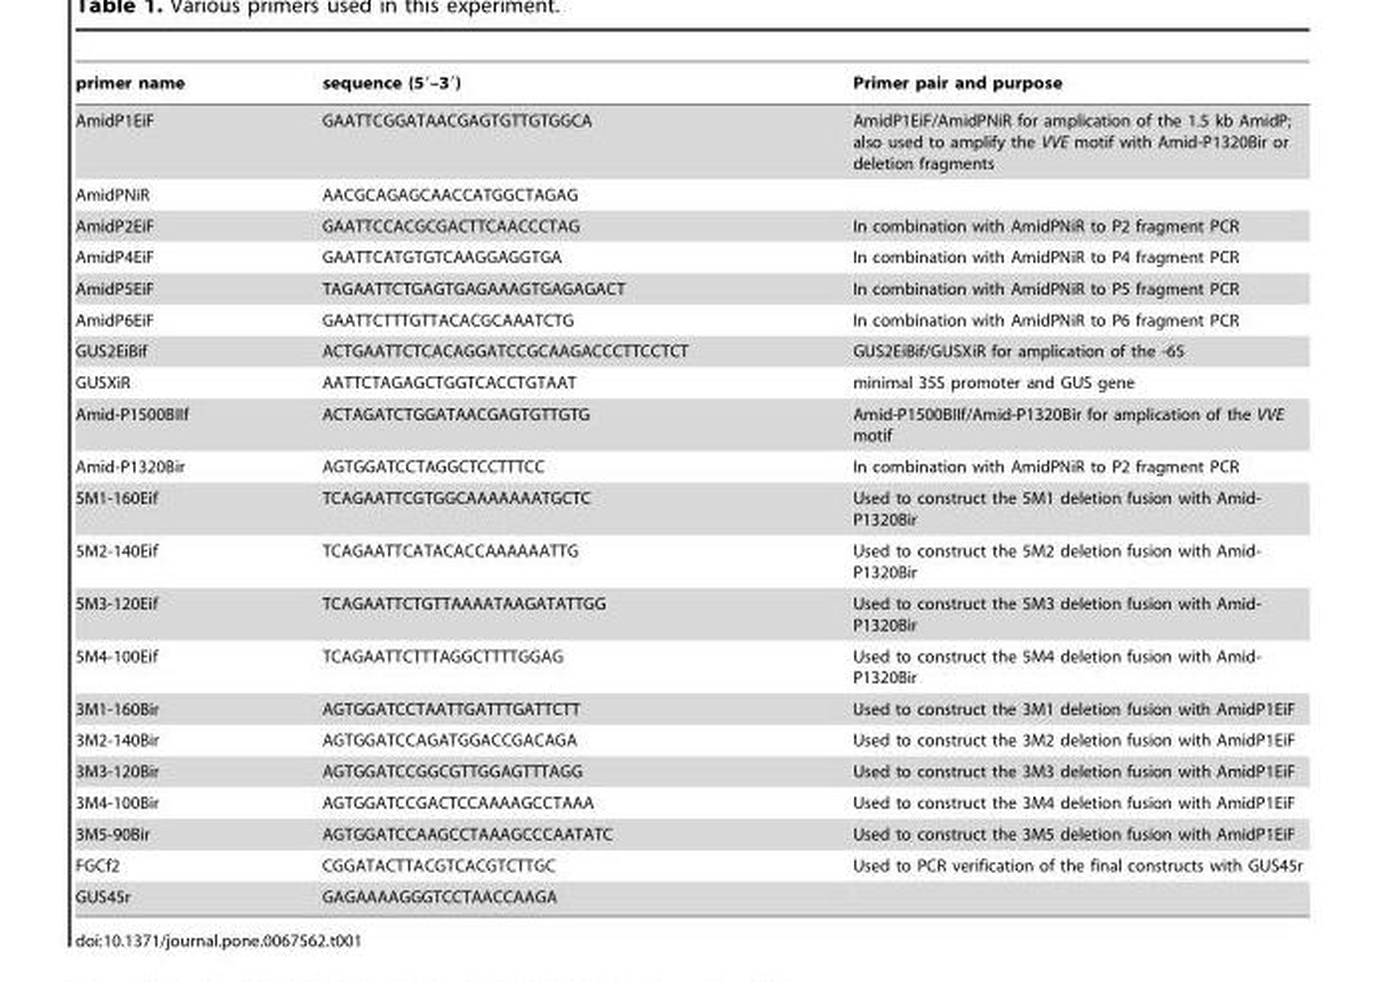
<table><thead><tr><td>primer name</td><td>sequence (5′–3′)</td><td>Primer pair and purpose</td></tr></thead><tbody><tr><td>AmidP1EiF</td><td>GAATTCGGATAACGAGTGTTGTGGCA</td><td>AmidP1EiF/AmidPNiR for amplication of the 1.5 kb AmidP; also used to amplify the VVE motif with Amid-P1320Bir or deletion fragments</td></tr><tr><td>AmidPNiR</td><td>AACGCAGAGCAACCATGGCTAGAG</td><td></td></tr><tr><td>AmidP2EiF</td><td>GAATTCCACGCGACTTCAACCCTAG</td><td>In combination with AmidPNiR to P2 fragment PCR</td></tr><tr><td>AmidP4EiF</td><td>GAATTCATGTGTCAAGGAGGTGA</td><td>In combination with AmidPNiR to P4 fragment PCR</td></tr><tr><td>AmidP5EiF</td><td>TAGAATTCTGAGTGAGAAAGTGAGAGACT</td><td>In combination with AmidPNiR to P5 fragment PCR</td></tr><tr><td>AmidP6EiF</td><td>GAATTCTTTGTTACACGCAAATCTG</td><td>In combination with AmidPNiR to P6 fragment PCR</td></tr><tr><td>GUS2EiBif</td><td>ACTGAATTCTCACAGGATCCGCAAGACCCTTCCTCT</td><td>GUS2EiBif/GUSXiR for amplication of the -65</td></tr><tr><td>GUSXiR</td><td>AATTCTAGAGCTGGTCACCTGTAAT</td><td>minimal 35S promoter and GUS gene</td></tr><tr><td>Amid-P1500BIIf</td><td>ACTAGATCTGGATAACGAGTGTTGTG</td><td>Amid-P1500BIIf/Amid-P1320Bir for amplication of the VVE motif</td></tr><tr><td>Amid-P1320Bir</td><td>AGTGGATCCTAGGCTCCTTTCC</td><td>In combination with AmidPNiR to P2 fragment PCR</td></tr><tr><td>5M1-160Eif</td><td>TCAGAATTCGTGGCAAAAAAATGCTC</td><td>Used to construct the 5M1 deletion fusion with Amid- P1320Bir</td></tr><tr><td>5M2-140Eif</td><td>TCAGAATTCATACACCAAAAAATTG</td><td>Used to construct the 5M2 deletion fusion with Amid- P1320Bir</td></tr><tr><td>5M3-120Eif</td><td>TCAGAATTCTGTTAAAATAAGATATTGG</td><td>Used to construct the 5M3 deletion fusion with Amid- P1320Bir</td></tr><tr><td>5M4-100Eif</td><td>TCAGAATTCTTTAGGCTTTTGGAG</td><td>Used to construct the 5M4 deletion fusion with Amid- P1320Bir</td></tr><tr><td>3M1-160Bir</td><td>AGTGGATCCTAATTGATTTGATTCTT</td><td>Used to construct the 3M1 deletion fusion with AmidP1EiF</td></tr><tr><td>3M2-140Bir</td><td>AGTGGATCCAGATGGACCGACAGA</td><td>Used to construct the 3M2 deletion fusion with AmidP1EiF</td></tr><tr><td>3M3-120Bir</td><td>AGTGGATCCGGCGTTGGAGTTTAGG</td><td>Used to construct the 3M3 deletion fusion with AmidP1EiF</td></tr><tr><td>3M4-100Bir</td><td>AGTGGATCCGACTCCAAAAGCCTAAA</td><td>Used to construct the 3M4 deletion fusion with AmidP1EiF</td></tr><tr><td>3M5-90Bir</td><td>AGTGGATCCAAGCCTAAAGCCCAATATC</td><td>Used to construct the 3M5 deletion fusion with AmidP1EiF</td></tr><tr><td>FGCf2</td><td>CGGATACTTACGTCACGTCTTGC</td><td>Used to PCR verification of the final constructs with GUS45r</td></tr><tr><td>GUS45r</td><td>GAGAAAAGGGTCCTAACCAAGA</td><td></td></tr></tbody></table>